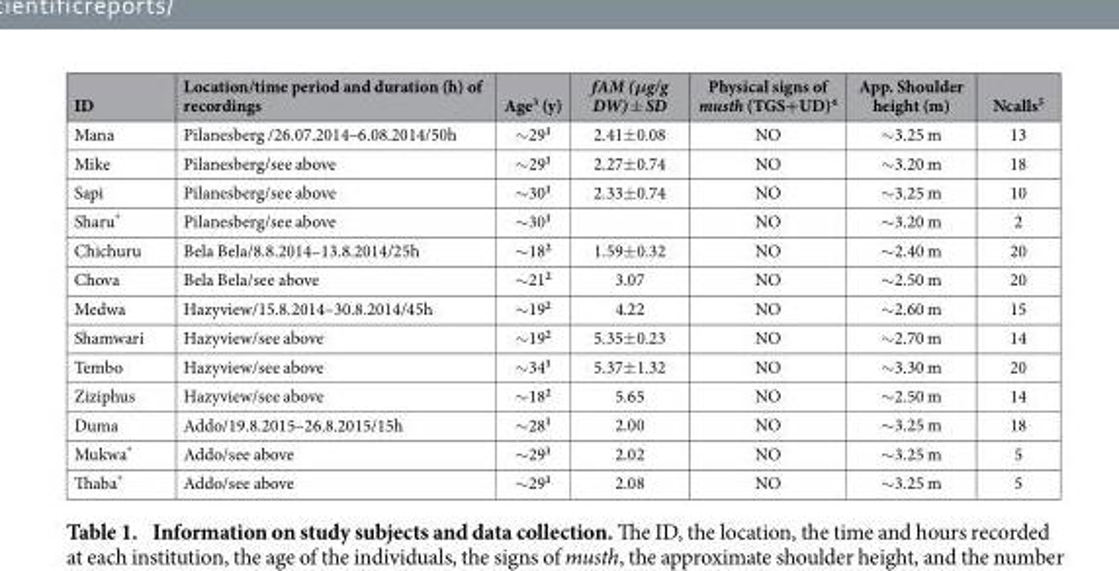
<table><thead><tr><td>ID</td><td>Location/time period and duration (h) of recordings</td><td>Age<sup>3</sup> (y)</td><td>fAM (μg/g DW) ± SD</td><td>Physical signs of musth (TGS+UD)<sup>4</sup></td><td>App. Shoulder height (m)</td><td>Ncalls<sup>5</sup></td></tr></thead><tbody><tr><td>Mana</td><td>Pilanesberg /26.07.2014–6.08.2014/50h</td><td>∼ 29<sup>1</sup></td><td>2.41± 0.08</td><td>NO</td><td>∼ 3.25 m</td><td>13</td></tr><tr><td>Mike</td><td>Pilanesberg/see above</td><td>∼ 29<sup>1</sup></td><td>2.27± 0.74</td><td>NO</td><td>∼ 3.20 m</td><td>18</td></tr><tr><td>Sapi</td><td>Pilanesberg/see above</td><td>∼ 30<sup>1</sup></td><td>2.33± 0.74</td><td>NO</td><td>∼ 3.25 m</td><td>10</td></tr><tr><td>Sharu*</td><td>Pilanesberg/see above</td><td>∼ 30<sup>1</sup></td><td></td><td>NO</td><td>∼ 3.20 m</td><td>2</td></tr><tr><td>Chichuru</td><td>Bela Bela/8.8.2014–13.8.2014/25h</td><td>∼ 18<sup>2</sup></td><td>1.59± 0.32</td><td>NO</td><td>∼ 2.40 m</td><td>20</td></tr><tr><td>Chova</td><td>Bela Bela/see above</td><td>∼ 21<sup>2</sup></td><td>3.07</td><td>NO</td><td>∼ 2.50 m</td><td>20</td></tr><tr><td>Medwa</td><td>Hazyview/15.8.2014–30.8.2014/45h</td><td>∼ 19<sup>2</sup></td><td>4.22</td><td>NO</td><td>∼ 2.60 m</td><td>15</td></tr><tr><td>Shamwari</td><td>Hazyview/see above</td><td>∼ 19<sup>2</sup></td><td>5.35± 0.23</td><td>NO</td><td>∼ 2.70 m</td><td>14</td></tr><tr><td>Tembo</td><td>Hazyview/see above</td><td>∼ 34<sup>1</sup></td><td>5.37± 1.32</td><td>NO</td><td>∼ 3.30 m</td><td>20</td></tr><tr><td>Ziziphus</td><td>Hazyview/see above</td><td>∼ 18<sup>2</sup></td><td>5.65</td><td>NO</td><td>∼ 2.50 m</td><td>14</td></tr><tr><td>Duma</td><td>Addo/19.8.2015–26.8.2015/15h</td><td>∼ 28<sup>1</sup></td><td>2.00</td><td>NO</td><td>∼ 3.25 m</td><td>18</td></tr><tr><td>Mukwa*</td><td>Addo/see above</td><td>∼ 29<sup>1</sup></td><td>2.02</td><td>NO</td><td>∼ 3.25 m</td><td>5</td></tr><tr><td>Thaba*</td><td>Addo/see above</td><td>∼ 29<sup>1</sup></td><td>2.08</td><td>NO</td><td>∼ 3.25 m</td><td>5</td></tr></tbody></table>